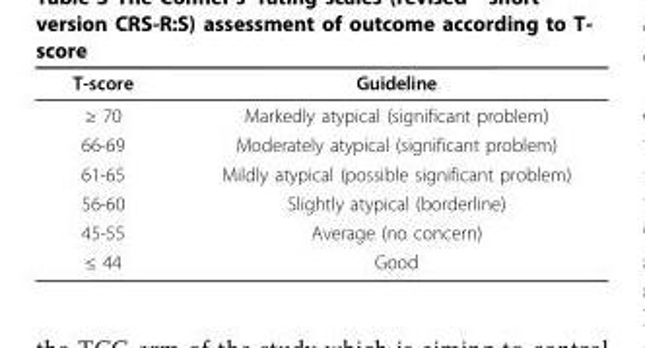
<table><thead><tr><td>T-score</td><td>Guideline</td></tr></thead><tbody><tr><td>≥ 70</td><td>Markedly atypical (significant problem)</td></tr><tr><td>66-69</td><td>Moderately atypical (significant problem)</td></tr><tr><td>61-65</td><td>Mildly atypical (possible significant problem)</td></tr><tr><td>56-60</td><td>Slightly atypical (borderline)</td></tr><tr><td>45-55</td><td>Average (no concern)</td></tr><tr><td>≤ 44</td><td>Good</td></tr></tbody></table>